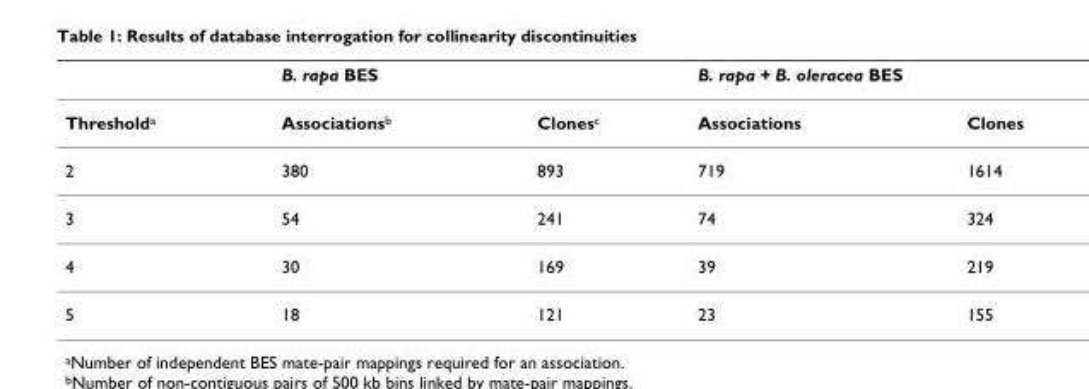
<table><thead><tr><td rowspan="2">Threshold<sup>a</sup></td><td colspan="2">B. rapa BES</td><td colspan="2">B. rapa + B. oleracea BES</td></tr><tr><td>Associations<sup>b</sup></td><td>Clones<sup>c</sup></td><td>Associations</td><td>Clones</td></tr></thead><tbody><tr><td>2</td><td>380</td><td>893</td><td>719</td><td>1614</td></tr><tr><td>3</td><td>54</td><td>241</td><td>74</td><td>324</td></tr><tr><td>4</td><td>30</td><td>169</td><td>39</td><td>219</td></tr><tr><td>5</td><td>18</td><td>121</td><td>23</td><td>155</td></tr></tbody></table>